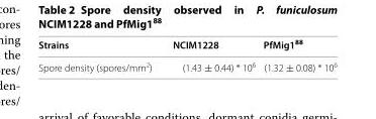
<table><thead><tr><td>Strains</td><td>NCIM1228</td><td>PfMig1<sup>88</sup></td></tr></thead><tbody><tr><td>Spore density (spores/mm<sup>2</sup>)</td><td>(1.43 ± 0.44) * 10<sup>6</sup></td><td>(1.32 ± 0.08) * 10<sup>6</sup></td></tr></tbody></table>